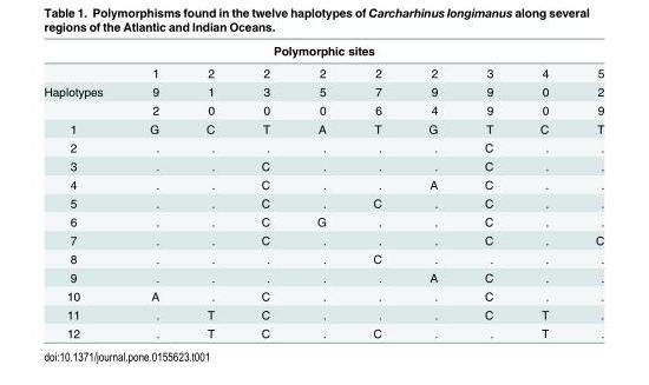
<table><thead><tr><td colspan="10">Polymorphic sites</td></tr><tr><td></td><td>1</td><td>2</td><td>2</td><td>2</td><td>2</td><td>2</td><td>3</td><td>4</td><td>5</td></tr></thead><tbody><tr><td rowspan="2">Haplotypes</td><td>9</td><td>1</td><td>3</td><td>5</td><td>7</td><td>9</td><td>9</td><td>0</td><td>2</td></tr><tr><td>2</td><td>0</td><td>0</td><td>0</td><td>6</td><td>4</td><td>9</td><td>0</td><td>9</td></tr><tr><td>1</td><td>G</td><td>C</td><td>T</td><td>A</td><td>T</td><td>G</td><td>T</td><td>C</td><td>T</td></tr><tr><td>2</td><td>.</td><td>.</td><td>.</td><td>.</td><td>.</td><td>.</td><td>C</td><td>.</td><td>.</td></tr><tr><td>3</td><td>.</td><td>.</td><td>C</td><td>.</td><td>.</td><td>.</td><td>C</td><td>.</td><td>.</td></tr><tr><td>4</td><td>.</td><td>.</td><td>C</td><td>.</td><td>.</td><td>A</td><td>C</td><td>.</td><td>.</td></tr><tr><td>5</td><td>.</td><td>.</td><td>C</td><td>.</td><td>C</td><td>.</td><td>C</td><td>.</td><td>.</td></tr><tr><td>6</td><td>.</td><td>.</td><td>C</td><td>G</td><td>.</td><td>.</td><td>C</td><td>.</td><td>.</td></tr><tr><td>7</td><td>.</td><td>.</td><td>C</td><td>.</td><td>.</td><td>.</td><td>C</td><td>.</td><td>C</td></tr><tr><td>8</td><td>.</td><td>.</td><td>.</td><td>.</td><td>C</td><td>.</td><td>.</td><td>.</td><td>.</td></tr><tr><td>9</td><td>.</td><td>.</td><td>.</td><td>.</td><td>.</td><td>A</td><td>C</td><td>.</td><td>.</td></tr><tr><td>10</td><td>A</td><td>.</td><td>C</td><td>.</td><td>.</td><td>.</td><td>C</td><td>.</td><td>.</td></tr><tr><td>11</td><td>.</td><td>T</td><td>C</td><td>.</td><td>.</td><td>.</td><td>C</td><td>T</td><td>.</td></tr><tr><td>12</td><td>.</td><td>T</td><td>C</td><td>.</td><td>C</td><td>.</td><td>.</td><td>T</td><td>.</td></tr></tbody></table>